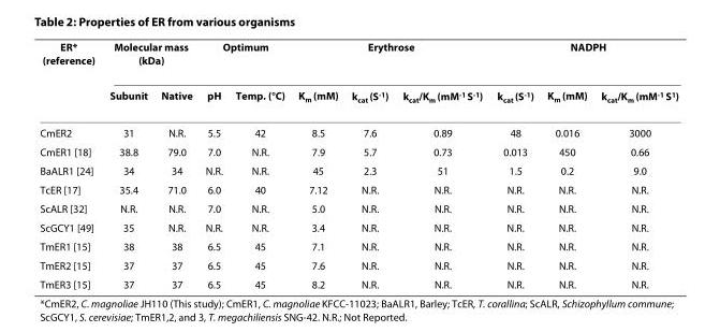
<table><thead><tr><td rowspan="2">ER* (reference)</td><td colspan="2">Molecular mass (kDa)</td><td colspan="2">Optimum</td><td colspan="3">Erythrose</td><td colspan="3">NADPH</td></tr><tr><td>Subunit</td><td>Native</td><td>pH</td><td>Temp. (°C)</td><td>K<sub>m</sub> (mM)</td><td>k<sub>cat</sub> (S<sup>-1</sup>)</td><td>k<sub>cat</sub>/K<sub>m</sub> (mM<sup>-1</sup> S<sup>-1</sup>)</td><td>k<sub>cat</sub> (S<sup>-1</sup>)</td><td>K<sub>m</sub> (mM)</td><td>k<sub>cat</sub>/K<sub>m</sub> (mM<sup>-1</sup> S<sup>1</sup>)</td></tr></thead><tbody><tr><td>CmER2</td><td>31</td><td>N.R.</td><td>5.5</td><td>42</td><td>8.5</td><td>7.6</td><td>0.89</td><td>48</td><td>0.016</td><td>3000</td></tr><tr><td>CmER1 [18]</td><td>38.8</td><td>79.0</td><td>7.0</td><td>N.R.</td><td>7.9</td><td>5.7</td><td>0.73</td><td>0.013</td><td>450</td><td>0.66</td></tr><tr><td>BaALR1 [24]</td><td>34</td><td>34</td><td>N.R.</td><td>N.R.</td><td>45</td><td>2.3</td><td>51</td><td>1.5</td><td>0.2</td><td>9.0</td></tr><tr><td>TcER [17]</td><td>35.4</td><td>71.0</td><td>6.0</td><td>40</td><td>7.12</td><td>N.R.</td><td>N.R.</td><td>N.R.</td><td>N.R.</td><td>N.R.</td></tr><tr><td>ScALR [32]</td><td>N.R.</td><td>N.R.</td><td>7.0</td><td>N.R.</td><td>5.0</td><td>N.R.</td><td>N.R.</td><td>N.R.</td><td>N.R.</td><td>N.R.</td></tr><tr><td>ScGCY1 [49]</td><td>35</td><td>N.R.</td><td>N.R.</td><td>N.R.</td><td>3.4</td><td>N.R.</td><td>N.R.</td><td>N.R.</td><td>N.R.</td><td>N.R.</td></tr><tr><td>TmER1 [15]</td><td>38</td><td>38</td><td>6.5</td><td>45</td><td>7.1</td><td>N.R.</td><td>N.R.</td><td>N.R.</td><td>N.R.</td><td>N.R.</td></tr><tr><td>TmER2 [15]</td><td>37</td><td>37</td><td>6.5</td><td>45</td><td>7.6</td><td>N.R.</td><td>N.R.</td><td>N.R.</td><td>N.R.</td><td>N.R.</td></tr><tr><td>TmER3 [15]</td><td>37</td><td>37</td><td>6.5</td><td>45</td><td>8.2</td><td>N.R.</td><td>N.R.</td><td>N.R.</td><td>N.R.</td><td>N.R.</td></tr></tbody></table>